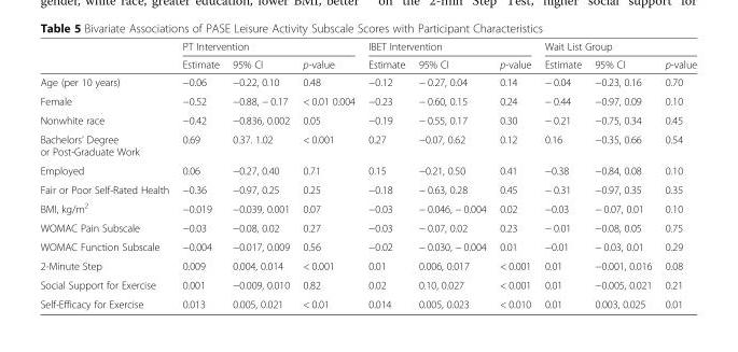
<table><thead><tr><td rowspan="2"></td><td colspan="3">PT Intervention</td><td colspan="3">IBET Intervention</td><td colspan="3">Wait List Group</td></tr><tr><td>Estimate</td><td>95% CI</td><td>p-value</td><td>Estimate</td><td>95% CI</td><td>p-value</td><td>Estimate</td><td>95% CI</td><td>p-value</td></tr></thead><tbody><tr><td>Age (per 10 years)</td><td>−0.06</td><td>−0.22, 0.10</td><td>0.48</td><td>−0.12</td><td>− 0.27, 0.04</td><td>0.14</td><td>− 0.04</td><td>−0.23, 0.16</td><td>0.70</td></tr><tr><td>Female</td><td>−0.52</td><td>−0.88, − 0.17</td><td>&lt; 0.01 0.004</td><td>−0.23</td><td>− 0.60, 0.15</td><td>0.24</td><td>− 0.44</td><td>−0.97, 0.09</td><td>0.10</td></tr><tr><td>Nonwhite race</td><td>−0.42</td><td>−0.836, 0.002</td><td>0.05</td><td>−0.19</td><td>− 0.55, 0.17</td><td>0.30</td><td>− 0.21</td><td>−0.75, 0.34</td><td>0.45</td></tr><tr><td>Bachelors’ Degree or Post-Graduate Work</td><td>0.69</td><td>0.37. 1.02</td><td>&lt; 0.001</td><td>0.27</td><td>−0.07, 0.62</td><td>0.12</td><td>0.16</td><td>−0.35, 0.66</td><td>0.54</td></tr><tr><td>Employed</td><td>0.06</td><td>−0.27, 0.40</td><td>0.71</td><td>0.15</td><td>−0.21, 0.50</td><td>0.41</td><td>−0.38</td><td>−0.84, 0.08</td><td>0.10</td></tr><tr><td>Fair or Poor Self-Rated Health</td><td>−0.36</td><td>−0.97, 0.25</td><td>0.25</td><td>−0.18</td><td>− 0.63, 0.28</td><td>0.45</td><td>− 0.31</td><td>−0.97, 0.35</td><td>0.35</td></tr><tr><td>BMI, kg/m<sup>2</sup></td><td>−0.019</td><td>−0.039, 0.001</td><td>0.07</td><td>−0.03</td><td>− 0.046, − 0.004</td><td>0.02</td><td>−0.03</td><td>− 0.07, 0.01</td><td>0.10</td></tr><tr><td>WOMAC Pain Subscale</td><td>−0.03</td><td>−0.08, 0.02</td><td>0.27</td><td>−0.03</td><td>− 0.07, 0.02</td><td>0.23</td><td>− 0.01</td><td>−0.08, 0.05</td><td>0.75</td></tr><tr><td>WOMAC Function Subscale</td><td>−0.004</td><td>−0.017, 0.009</td><td>0.56</td><td>−0.02</td><td>− 0.030, − 0.004</td><td>0.01</td><td>−0.01</td><td>− 0.03, 0.01</td><td>0.29</td></tr><tr><td>2-Minute Step</td><td>0.009</td><td>0.004, 0.014</td><td>&lt; 0.001</td><td>0.01</td><td>0.006, 0.017</td><td>&lt; 0.001</td><td>0.01</td><td>−0.001, 0.016</td><td>0.08</td></tr><tr><td>Social Support for Exercise</td><td>0.001</td><td>−0.009, 0.010</td><td>0.82</td><td>0.02</td><td>0.10, 0.027</td><td>&lt; 0.001</td><td>0.01</td><td>−0.005, 0.021</td><td>0.21</td></tr><tr><td>Self-Efficacy for Exercise</td><td>0.013</td><td>0.005, 0.021</td><td>&lt; 0.01</td><td>0.014</td><td>0.005, 0.023</td><td>&lt; 0.010</td><td>0.01</td><td>0.003, 0.025</td><td>0.01</td></tr></tbody></table>